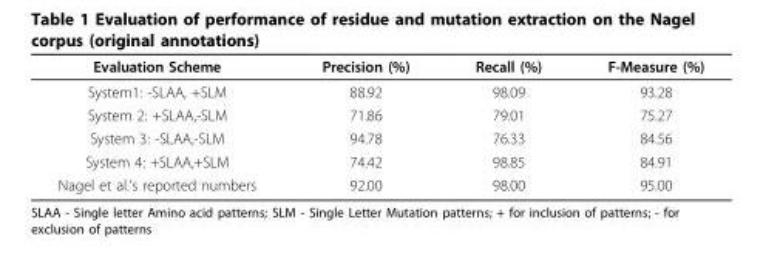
<table><thead><tr><td>Evaluation Scheme</td><td>Precision (%)</td><td>Recall (%)</td><td>F-Measure (%)</td></tr></thead><tbody><tr><td>System1: -SLAA, +SLM</td><td>88.92</td><td>98.09</td><td>93.28</td></tr><tr><td>System 2: +SLAA,-SLM</td><td>71.86</td><td>79.01</td><td>75.27</td></tr><tr><td>System 3: -SLAA,-SLM</td><td>94.78</td><td>76.33</td><td>84.56</td></tr><tr><td>System 4: +SLAA,+SLM</td><td>74.42</td><td>98.85</td><td>84.91</td></tr><tr><td>Nagel et al.’s reported numbers</td><td>92.00</td><td>98.00</td><td>95.00</td></tr></tbody></table>